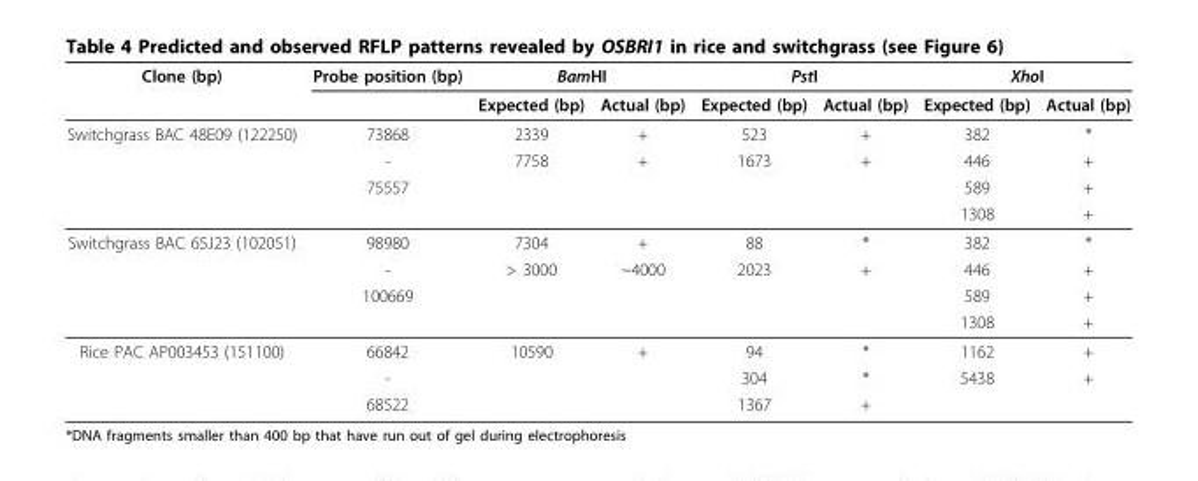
<table><thead><tr><td rowspan="2">Clone (bp)</td><td rowspan="2">Probe position (bp)</td><td colspan="2">BamHI</td><td colspan="2">PstI</td><td colspan="2">XhoI</td></tr><tr><td>Expected (bp)</td><td>Actual (bp)</td><td>Expected (bp)</td><td>Actual (bp)</td><td>Expected (bp)</td><td>Actual (bp)</td></tr></thead><tbody><tr><td rowspan="4">Switchgrass BAC 48E09 (122250)</td><td>73868</td><td>2339</td><td>+</td><td>523</td><td>+</td><td>382</td><td>*</td></tr><tr><td>-</td><td>7758</td><td>+</td><td>1673</td><td>+</td><td>446</td><td>+</td></tr><tr><td>75557</td><td></td><td></td><td></td><td></td><td>589</td><td>+</td></tr><tr><td></td><td></td><td></td><td></td><td></td><td>1308</td><td>+</td></tr><tr><td rowspan="4">Switchgrass BAC 65J23 (102051)</td><td>98980</td><td>7304</td><td>+</td><td>88</td><td>*</td><td>382</td><td>*</td></tr><tr><td>-</td><td>&gt; 3000</td><td>~4000</td><td>2023</td><td>+</td><td>446</td><td>+</td></tr><tr><td>100669</td><td></td><td></td><td></td><td></td><td>589</td><td>+</td></tr><tr><td></td><td></td><td></td><td></td><td></td><td>1308</td><td>+</td></tr><tr><td rowspan="3">Rice PAC AP003453 (151100)</td><td>66842</td><td>10590</td><td>+</td><td>94</td><td>*</td><td>1162</td><td>+</td></tr><tr><td>-</td><td></td><td></td><td>304</td><td>*</td><td>5438</td><td>+</td></tr><tr><td>68522</td><td></td><td></td><td>1367</td><td>+</td><td></td><td></td></tr></tbody></table>